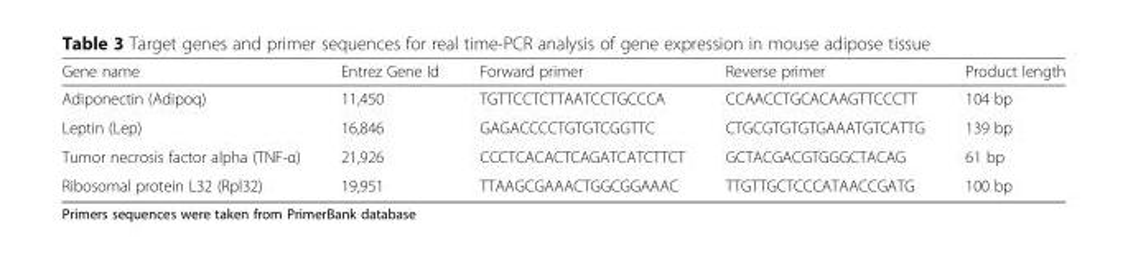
<table><thead><tr><td>Gene name</td><td>Entrez Gene Id</td><td>Forward primer</td><td>Reverse primer</td><td>Product length</td></tr></thead><tbody><tr><td>Adiponectin (Adipoq)</td><td>11,450</td><td>TGTTCCTCTTAATCCTGCCCA</td><td>CCAACCTGCACAAGTTCCCTT</td><td>104 bp</td></tr><tr><td>Leptin (Lep)</td><td>16,846</td><td>GAGACCCCTGTGTCGGTTC</td><td>CTGCGTGTGTGAAATGTCATTG</td><td>139 bp</td></tr><tr><td>Tumor necrosis factor alpha (TNF-α)</td><td>21,926</td><td>CCCTCACACTCAGATCATCTTCT</td><td>GCTACGACGTGGGCTACAG</td><td>61 bp</td></tr><tr><td>Ribosomal protein L32 (Rpl32)</td><td>19,951</td><td>TTAAGCGAAACTGGCGGAAAC</td><td>TTGTTGCTCCCATAACCGATG</td><td>100 bp</td></tr></tbody></table>